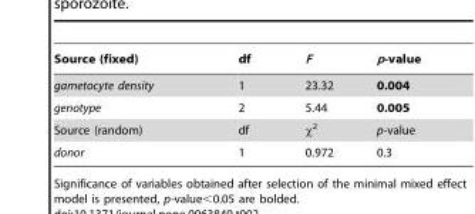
<table><thead><tr><td>Source (fixed)</td><td>df</td><td>F</td><td>p-value</td></tr></thead><tbody><tr><td>gametocyte density</td><td>1</td><td>23.32</td><td>0.004</td></tr><tr><td>genotype</td><td>2</td><td>5.44</td><td>0.005</td></tr><tr><td>Source (random)</td><td>df</td><td>x2</td><td>p-value</td></tr><tr><td>donor</td><td>1</td><td>0.972</td><td>0.3</td></tr></tbody></table>